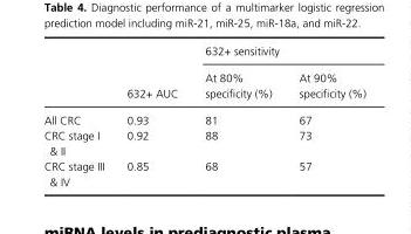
<table><thead><tr><td rowspan="2"></td><td rowspan="2">632+ AUC</td><td colspan="2">632+ sensitivity</td></tr><tr><td>At 80% specificity (%)</td><td>At 90% specificity (%)</td></tr></thead><tbody><tr><td>All CRC</td><td>0.93</td><td>81</td><td>67</td></tr><tr><td>CRC stage I &amp; II</td><td>0.92</td><td>88</td><td>73</td></tr><tr><td>CRC stage III &amp; IV</td><td>0.85</td><td>68</td><td>57</td></tr></tbody></table>